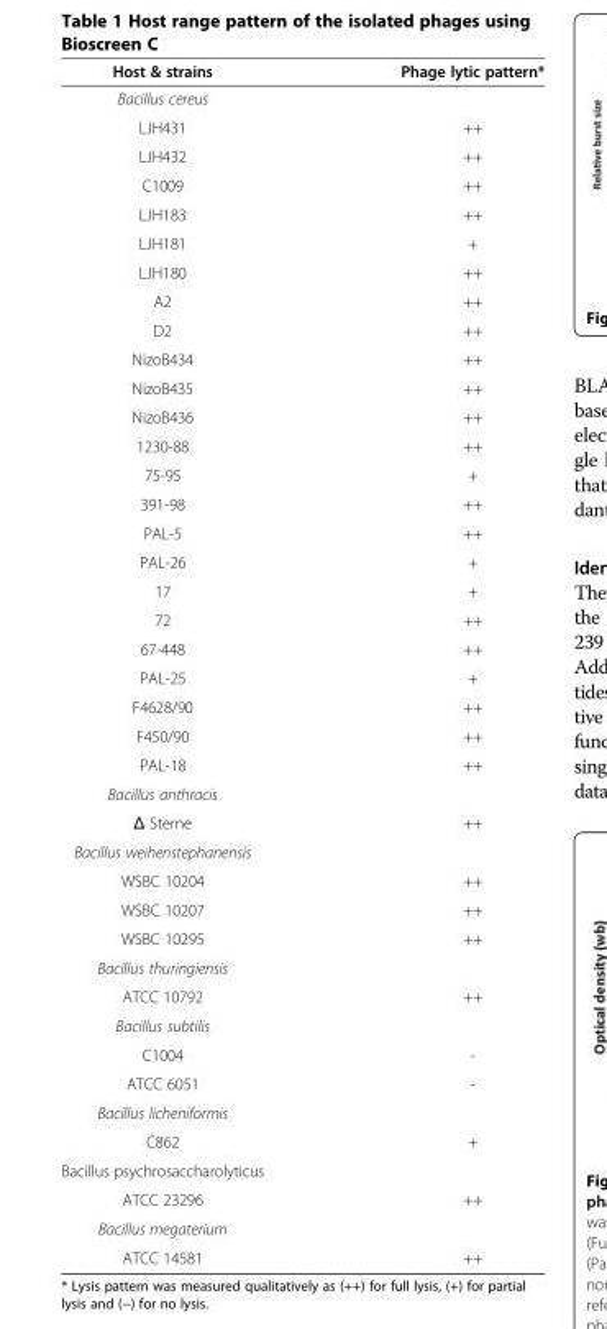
<table><thead><tr><td>Host &amp; strains</td><td>Phage lytic pattern*</td></tr></thead><tbody><tr><td colspan="2">Bacillus cereus</td></tr><tr><td>LJH431</td><td>++</td></tr><tr><td>LJH432</td><td>++</td></tr><tr><td>C1009</td><td>++</td></tr><tr><td>LJH183</td><td>++</td></tr><tr><td>LJH181</td><td>+</td></tr><tr><td>LJH180</td><td>++</td></tr><tr><td>A2</td><td>++</td></tr><tr><td>D2</td><td>++</td></tr><tr><td>NizoB434</td><td>++</td></tr><tr><td>NizoB435</td><td>++</td></tr><tr><td>NizoB436</td><td>++</td></tr><tr><td>1230-88</td><td>++</td></tr><tr><td>75-95</td><td>+</td></tr><tr><td>391-98</td><td>++</td></tr><tr><td>PAL-5</td><td>++</td></tr><tr><td>PAL-26</td><td>+</td></tr><tr><td>17</td><td>+</td></tr><tr><td>72</td><td>++</td></tr><tr><td>67-448</td><td>++</td></tr><tr><td>PAL-25</td><td>+</td></tr><tr><td>F4628/90</td><td>++</td></tr><tr><td>F450/90</td><td>++</td></tr><tr><td>PAL-18</td><td>++</td></tr><tr><td colspan="2">Bacillus anthracis</td></tr><tr><td>Δ Sterne</td><td>++</td></tr><tr><td colspan="2">Bacillus weihenstephanensis</td></tr><tr><td>WSBC 10204</td><td>++</td></tr><tr><td>WSBC 10207</td><td>++</td></tr><tr><td>WSBC 10295</td><td>++</td></tr><tr><td colspan="2">Bacillus thuringiensis</td></tr><tr><td>ATCC 10792</td><td>++</td></tr><tr><td colspan="2">Bacillus subtilis</td></tr><tr><td>C1004</td><td>-</td></tr><tr><td>ATCC 6051</td><td>-</td></tr><tr><td colspan="2">Bacillus licheniformis</td></tr><tr><td>C862</td><td>+</td></tr><tr><td colspan="2">Bacillus psychrosaccharolyticus</td></tr><tr><td>ATCC 23296</td><td>++</td></tr><tr><td colspan="2">Bacillus megaterium</td></tr><tr><td>ATCC 14581</td><td>++</td></tr></tbody></table>